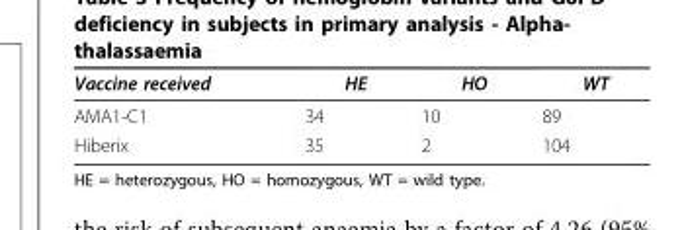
<table><thead><tr><td>Vaccine received</td><td>HE</td><td>HO</td><td>WT</td></tr></thead><tbody><tr><td>AMA1-C1</td><td>34</td><td>10</td><td>89</td></tr><tr><td>Hiberix</td><td>35</td><td>2</td><td>104</td></tr></tbody></table>